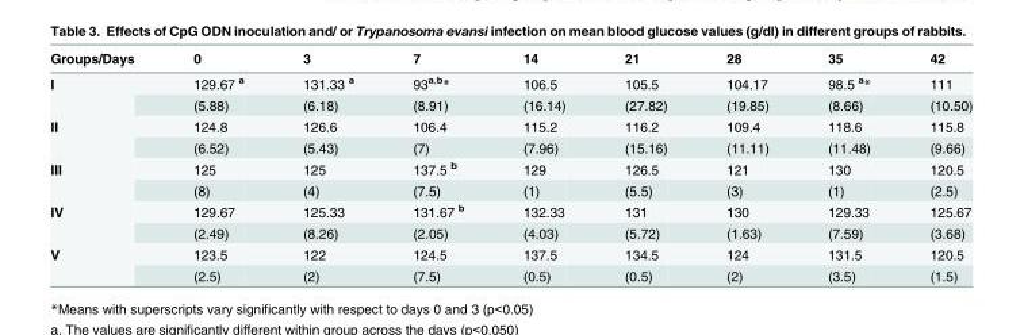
<table><thead><tr><td>Groups/Days</td><td>0</td><td>3</td><td>7</td><td>14</td><td>21</td><td>28</td><td>35</td><td>42</td></tr></thead><tbody><tr><td rowspan="2">I</td><td>129.67 <sup>a</sup></td><td>131.33 <sup>a</sup></td><td>93<sup>a,b</sup>*</td><td>106.5</td><td>105.5</td><td>104.17</td><td>98.5 <sup>a</sup>*</td><td>111</td></tr><tr><td>(5.88)</td><td>(6.18)</td><td>(8.91)</td><td>(16.14)</td><td>(27.82)</td><td>(19.85)</td><td>(8.66)</td><td>(10.50)</td></tr><tr><td rowspan="2">II</td><td>124.8</td><td>126.6</td><td>106.4</td><td>115.2</td><td>116.2</td><td>109.4</td><td>118.6</td><td>115.8</td></tr><tr><td>(6.52)</td><td>(5.43)</td><td>(7)</td><td>(7.96)</td><td>(15.16)</td><td>(11.11)</td><td>(11.48)</td><td>(9.66)</td></tr><tr><td rowspan="2">III</td><td>125</td><td>125</td><td>137.5 <sup>b</sup></td><td>129</td><td>126.5</td><td>121</td><td>130</td><td>120.5</td></tr><tr><td>(8)</td><td>(4)</td><td>(7.5)</td><td>(1)</td><td>(5.5)</td><td>(3)</td><td>(1)</td><td>(2.5)</td></tr><tr><td rowspan="2">IV</td><td>129.67</td><td>125.33</td><td>131.67 <sup>b</sup></td><td>132.33</td><td>131</td><td>130</td><td>129.33</td><td>125.67</td></tr><tr><td>(2.49)</td><td>(8.26)</td><td>(2.05)</td><td>(4.03)</td><td>(5.72)</td><td>(1.63)</td><td>(7.59)</td><td>(3.68)</td></tr><tr><td rowspan="2">V</td><td>123.5</td><td>122</td><td>124.5</td><td>137.5</td><td>134.5</td><td>124</td><td>131.5</td><td>120.5</td></tr><tr><td>(2.5)</td><td>(2)</td><td>(7.5)</td><td>(0.5)</td><td>(0.5)</td><td>(2)</td><td>(3.5)</td><td>(1.5)</td></tr></tbody></table>